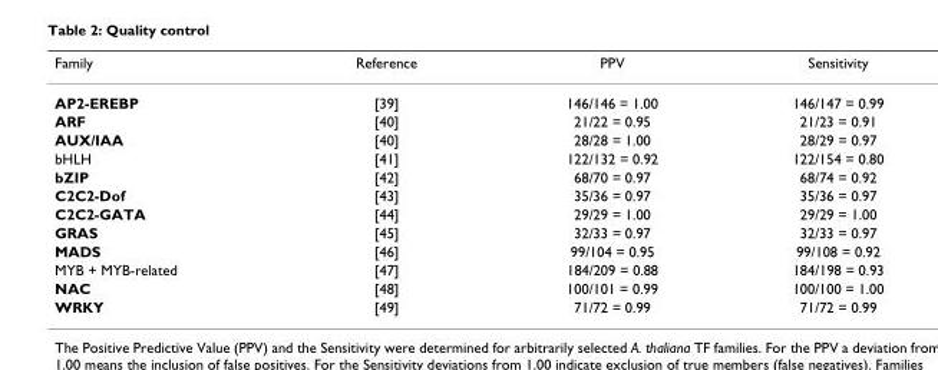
<table><thead><tr><td>Family</td><td>Reference</td><td>PPV</td><td>Sensitivity</td></tr></thead><tbody><tr><td>AP2-EREBP</td><td>[39]</td><td>146/146 = 1.00</td><td>146/147 = 0.99</td></tr><tr><td>ARF</td><td>[40]</td><td>21/22 = 0.95</td><td>21/23 = 0.91</td></tr><tr><td>AUX/IAA</td><td>[40]</td><td>28/28 = 1.00</td><td>28/29 = 0.97</td></tr><tr><td>bHLH</td><td>[41]</td><td>122/132 = 0.92</td><td>122/154 = 0.80</td></tr><tr><td>bZIP</td><td>[42]</td><td>68/70 = 0.97</td><td>68/74 = 0.92</td></tr><tr><td>C2C2-Dof</td><td>[43]</td><td>35/36 = 0.97</td><td>35/36 = 0.97</td></tr><tr><td>C2C2-GATA</td><td>[44]</td><td>29/29 = 1.00</td><td>29/29 = 1.00</td></tr><tr><td>GRAS</td><td>[45]</td><td>32/33 = 0.97</td><td>32/33 = 0.97</td></tr><tr><td>MADS</td><td>[46]</td><td>99/104 = 0.95</td><td>99/108 = 0.92</td></tr><tr><td>MYB + MYB-related</td><td>[47]</td><td>184/209 = 0.88</td><td>184/198 = 0.93</td></tr><tr><td>NAC</td><td>[48]</td><td>100/101 = 0.99</td><td>100/100 = 1.00</td></tr><tr><td>WRKY</td><td>[49]</td><td>71/72 = 0.99</td><td>71/72 = 0.99</td></tr></tbody></table>